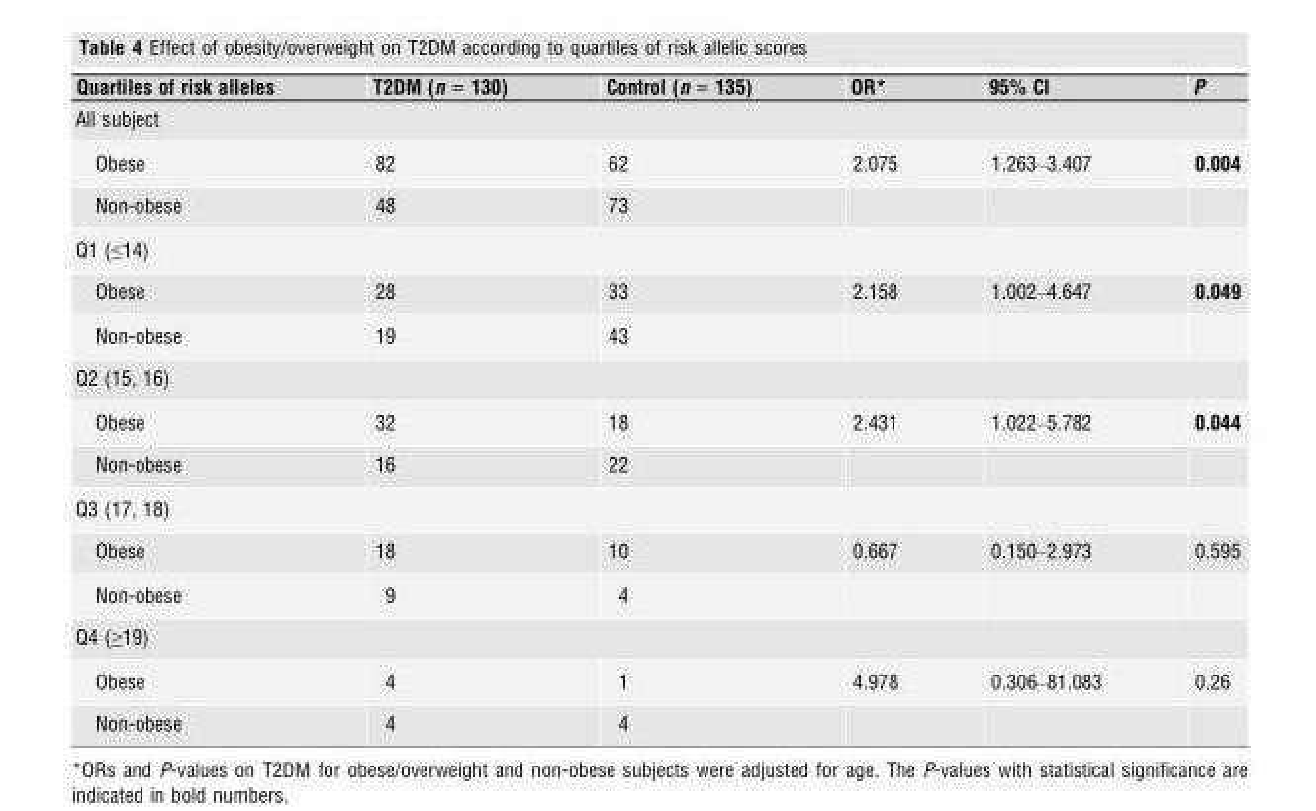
<table><thead><tr><td>Quartiles of risk alleles</td><td>T2DM (n = 130)</td><td>Control (n = 135)</td><td>OR*</td><td>95% CI</td><td>P</td></tr></thead><tbody><tr><td colspan="6">All subject</td></tr><tr><td>Obese</td><td>82</td><td>62</td><td>2.075</td><td>1.263–3.407</td><td>0.004</td></tr><tr><td>Non-obese</td><td>48</td><td>73</td><td></td><td></td><td></td></tr><tr><td colspan="6">Q1 (≤14)</td></tr><tr><td>Obese</td><td>28</td><td>33</td><td>2.158</td><td>1.002–4.647</td><td>0.049</td></tr><tr><td>Non-obese</td><td>19</td><td>43</td><td></td><td></td><td></td></tr><tr><td colspan="6">Q2 (15, 16)</td></tr><tr><td>Obese</td><td>32</td><td>18</td><td>2.431</td><td>1.022–5.782</td><td>0.044</td></tr><tr><td>Non-obese</td><td>16</td><td>22</td><td></td><td></td><td></td></tr><tr><td colspan="6">Q3 (17, 18)</td></tr><tr><td>Obese</td><td>18</td><td>10</td><td>0.667</td><td>0.150–2.973</td><td>0.595</td></tr><tr><td>Non-obese</td><td>9</td><td>4</td><td></td><td></td><td></td></tr><tr><td colspan="6">Q4 (≥19)</td></tr><tr><td>Obese</td><td>4</td><td>1</td><td>4.978</td><td>0.306–81.083</td><td>0.26</td></tr><tr><td>Non-obese</td><td>4</td><td>4</td><td></td><td></td><td></td></tr></tbody></table>